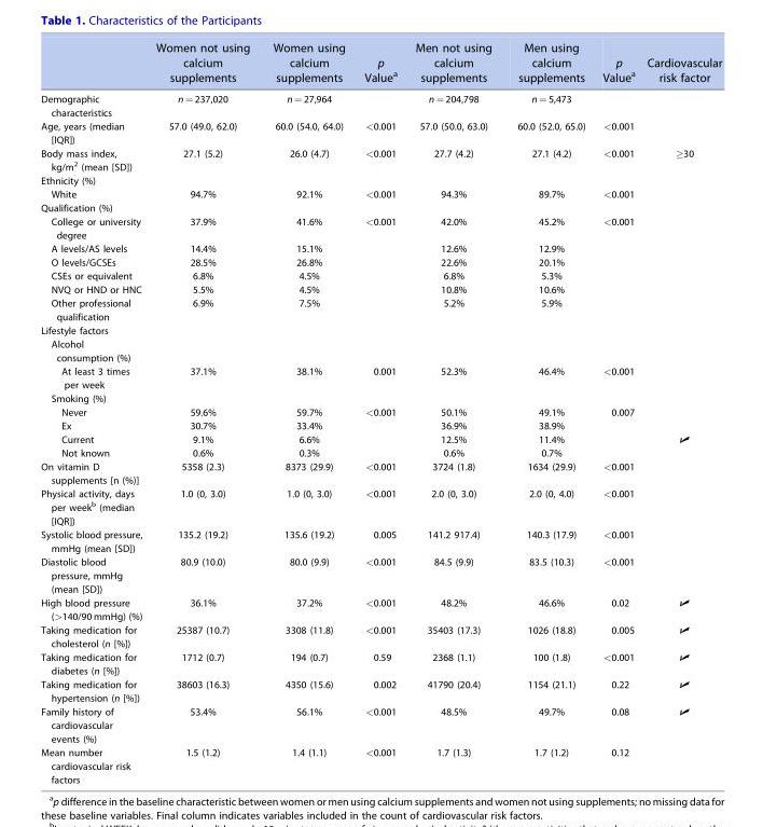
<table><thead><tr><td></td><td>Women not using calcium supplements</td><td>Women using calcium supplements</td><td>p Value<sup>a</sup></td><td>Men not using calcium supplements</td><td>Men using calcium supplements</td><td>p Value<sup>a</sup></td><td>Cardiovascular risk factor</td></tr></thead><tbody><tr><td>Demographic characteristics</td><td>n = 237,020</td><td>n = 27,964</td><td></td><td>n = 204,798</td><td>n = 5,473</td><td></td><td></td></tr><tr><td>Age, years (median [IQR])</td><td>57.0 (49.0, 62.0)</td><td>60.0 (54.0, 64.0)</td><td>&lt;0.001</td><td>57.0 (50.0, 63.0)</td><td>60.0 (52.0, 65.0)</td><td>&lt;0.001</td><td></td></tr><tr><td>Body mass index, kg/m<sup>2</sup> (mean [SD])</td><td>27.1 (5.2)</td><td>26.0 (4.7)</td><td>&lt;0.001</td><td>27.7 (4.2)</td><td>27.1 (4.2)</td><td>&lt;0.001</td><td>≥30</td></tr><tr><td colspan="8">Ethnicity (%)</td></tr><tr><td>White</td><td>94.7%</td><td>92.1%</td><td>&lt;0.001</td><td>94.3%</td><td>89.7%</td><td>&lt;0.001</td><td></td></tr><tr><td colspan="8">Qualification (%)</td></tr><tr><td>College or university degree</td><td>37.9%</td><td>41.6%</td><td rowspan="6">&lt;0.001</td><td>42.0%</td><td>45.2%</td><td rowspan="6">&lt;0.001</td><td></td></tr><tr><td>A levels/AS levels</td><td>14.4%</td><td>15.1%</td><td>12.6%</td><td>12.9%</td><td></td></tr><tr><td>O levels/GCSEs</td><td>28.5%</td><td>26.8%</td><td>22.6%</td><td>20.1%</td><td></td></tr><tr><td>CSEs or equivalent</td><td>6.8%</td><td>4.5%</td><td>6.8%</td><td>5.3%</td><td></td></tr><tr><td>NVQ or HND or HNC</td><td>5.5%</td><td>4.5%</td><td>10.8%</td><td>10.6%</td><td></td></tr><tr><td>Other professional qualification</td><td>6.9%</td><td>7.5%</td><td>5.2%</td><td>5.9%</td><td></td></tr><tr><td colspan="8">Lifestyle factors</td></tr><tr><td colspan="8">Alcohol consumption (%)</td></tr><tr><td>At least 3 times per week</td><td>37.1%</td><td>38.1%</td><td>0.001</td><td>52.3%</td><td>46.4%</td><td>&lt;0.001</td><td></td></tr><tr><td colspan="8">Smoking (%)</td></tr><tr><td>Never</td><td>59.6%</td><td>59.7%</td><td rowspan="4">&lt;0.001</td><td>50.1%</td><td>49.1%</td><td rowspan="4">0.007</td><td></td></tr><tr><td>Ex</td><td>30.7%</td><td>33.4%</td><td>36.9%</td><td>38.9%</td><td></td></tr><tr><td>Current</td><td>9.1%</td><td>6.6%</td><td>12.5%</td><td>11.4%</td><td>✓</td></tr><tr><td>Not known</td><td>0.6%</td><td>0.3%</td><td>0.6%</td><td>0.7%</td><td></td></tr><tr><td>On vitamin D supplements [n (%)]</td><td>5358 (2.3)</td><td>8373 (29.9)</td><td>&lt;0.001</td><td>3724 (1.8)</td><td>1634 (29.9)</td><td>&lt;0.001</td><td></td></tr><tr><td>Physical activity, days per week<sup>b</sup> (median [IQR])</td><td>1.0 (0, 3.0)</td><td>1.0 (0, 3.0)</td><td>&lt;0.001</td><td>2.0 (0, 3.0)</td><td>2.0 (0, 4.0)</td><td>&lt;0.001</td><td></td></tr><tr><td>Systolic blood pressure, mmHg (mean [SD])</td><td>135.2 (19.2)</td><td>135.6 (19.2)</td><td>0.005</td><td>141.2 917.4)</td><td>140.3 (17.9)</td><td>&lt;0.001</td><td></td></tr><tr><td>Diastolic blood pressure, mmHg (mean [SD])</td><td>80.9 (10.0)</td><td>80.0 (9.9)</td><td>&lt;0.001</td><td>84.5 (9.9)</td><td>83.5 (10.3)</td><td>&lt;0.001</td><td></td></tr><tr><td>High blood pressure (&gt;140/90 mmHg) (%)</td><td>36.1%</td><td>37.2%</td><td>&lt;0.001</td><td>48.2%</td><td>46.6%</td><td>0.02</td><td>✓</td></tr><tr><td>Taking medication for cholesterol (n [%])</td><td>25387 (10.7)</td><td>3308 (11.8)</td><td>&lt;0.001</td><td>35403 (17.3)</td><td>1026 (18.8)</td><td>0.005</td><td>✓</td></tr><tr><td>Taking medication for diabetes (n [%])</td><td>1712 (0.7)</td><td>194 (0.7)</td><td>0.59</td><td>2368 (1.1)</td><td>100 (1.8)</td><td>&lt;0.001</td><td>✓</td></tr><tr><td>Taking medication for hypertension (n [%])</td><td>38603 (16.3)</td><td>4350 (15.6)</td><td>0.002</td><td>41790 (20.4)</td><td>1154 (21.1)</td><td>0.22</td><td>✓</td></tr><tr><td>Family history of cardiovascular events (%)</td><td>53.4%</td><td>56.1%</td><td>&lt;0.001</td><td>48.5%</td><td>49.7%</td><td>0.08</td><td>✓</td></tr><tr><td>Mean number cardiovascular risk factors</td><td>1.5 (1.2)</td><td>1.4 (1.1)</td><td>&lt;0.001</td><td>1.7 (1.3)</td><td>1.7 (1.2)</td><td>0.12</td><td></td></tr></tbody></table>